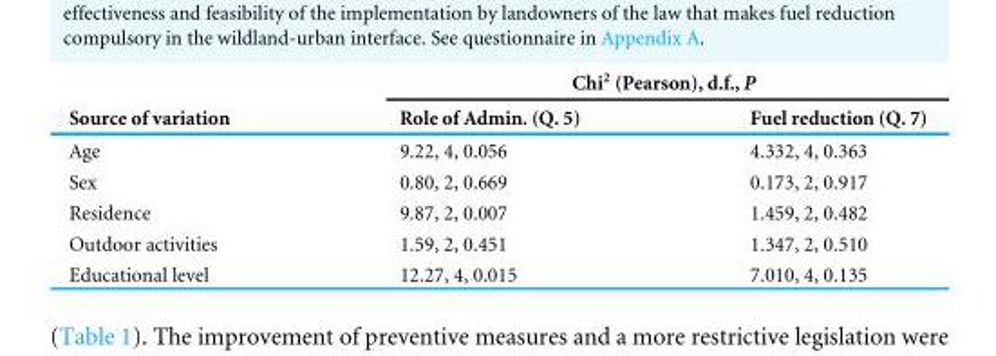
<table><thead><tr><td rowspan="2">Source of variation</td><td colspan="2">Chi<sup>2</sup> (Pearson), d.f., P</td></tr><tr><td>Role of Admin. (Q. 5)</td><td>Fuel reduction (Q. 7)</td></tr></thead><tbody><tr><td>Age</td><td>9.22, 4, 0.056</td><td>4.332, 4, 0.363</td></tr><tr><td>Sex</td><td>0.80, 2, 0.669</td><td>0.173, 2, 0.917</td></tr><tr><td>Residence</td><td>9.87, 2, 0.007</td><td>1.459, 2, 0.482</td></tr><tr><td>Outdoor activities</td><td>1.59, 2, 0.451</td><td>1.347, 2, 0.510</td></tr><tr><td>Educational level</td><td>12.27, 4, 0.015</td><td>7.010, 4, 0.135</td></tr></tbody></table>